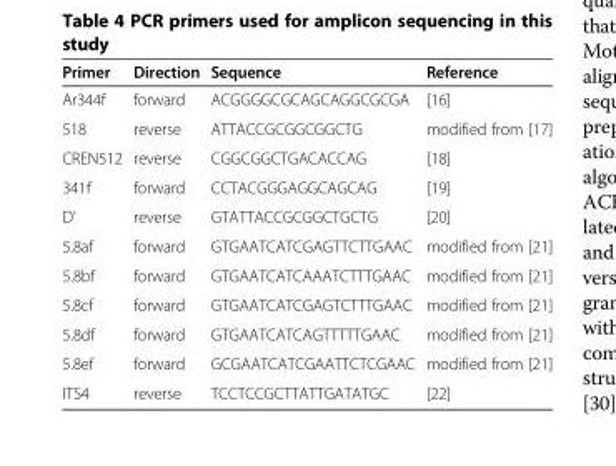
<table><thead><tr><td>Primer</td><td>Direction</td><td>Sequence</td><td>Reference</td></tr></thead><tbody><tr><td>Ar344f</td><td>forward</td><td>ACGGGGCGCAGCAGGCGCGA</td><td>[16]</td></tr><tr><td>518</td><td>reverse</td><td>ATTACCGCGGCGGCTG</td><td>modified from [17]</td></tr><tr><td>CREN512</td><td>reverse</td><td>CGGCGGCTGACACCAG</td><td>[18]</td></tr><tr><td>341f</td><td>forward</td><td>CCTACGGGAGGCAGCAG</td><td>[19]</td></tr><tr><td>D&#x27;</td><td>reverse</td><td>GTATTACCGCGGCTGCTG</td><td>[20]</td></tr><tr><td>5.8af</td><td>forward</td><td>GTGAATCATCGAGTTCTTGAAC</td><td>modified from [21]</td></tr><tr><td>5.8bf</td><td>forward</td><td>GTGAATCATCAAATCTTTGAAC</td><td>modified from [21]</td></tr><tr><td>5.8cf</td><td>forward</td><td>GTGAATCATCGAGTCTTTGAAC</td><td>modified from [21]</td></tr><tr><td>5.8df</td><td>forward</td><td>GTGAATCATCAGTTTTTGAAC</td><td>modified from [21]</td></tr><tr><td>5.8ef</td><td>forward</td><td>GCGAATCATCGAATTCTCGAAC</td><td>modified from [21]</td></tr><tr><td>ITS4</td><td>reverse</td><td>TCCTCCGCTTATTGATATGC</td><td>[22]</td></tr></tbody></table>